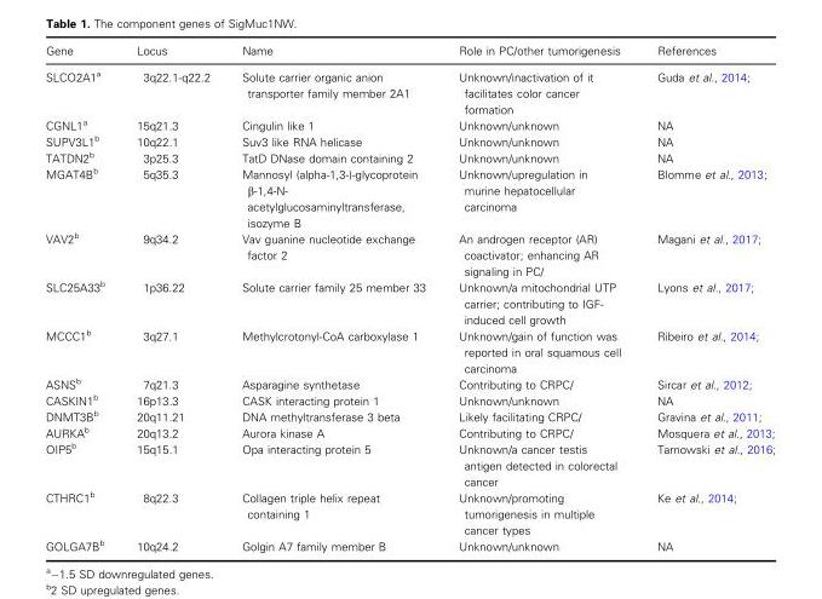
<table><thead><tr><td>Gene</td><td>Locus</td><td>Name</td><td>Role in PC/other tumorigenesis</td><td>References</td></tr></thead><tbody><tr><td>SLCO2A1<sup>a</sup></td><td>3q22.1-q22.2</td><td>Solute carrier organic anion transporter family member 2A1</td><td>Unknown/inactivation of it facilitates color cancer formation</td><td>Guda et al., 2014;</td></tr><tr><td>CGNL1<sup>a</sup></td><td>15q21.3</td><td>Cingulin like 1</td><td>Unknown/unknown</td><td>NA</td></tr><tr><td>SUPV3L1<sup>b</sup></td><td>10q22.1</td><td>Suv3 like RNA helicase</td><td>Unknown/unknown</td><td>NA</td></tr><tr><td>TATDN2<sup>b</sup></td><td>3p25.3</td><td>TatD DNase domain containing 2</td><td>Unknown/unknown</td><td>NA</td></tr><tr><td>MGAT4B<sup>b</sup></td><td>5q35.3</td><td>Mannosyl (alpha-1,3-)-glycoprotein β-1,4-N- acetylglucosaminyltransferase, isozyme B</td><td>Unknown/upregulation in murine hepatocellular carcinoma</td><td>Blomme et al., 2013;</td></tr><tr><td>VAV2<sup>b</sup></td><td>9q34.2</td><td>Vav guanine nucleotide exchange factor 2</td><td>An androgen receptor (AR) coactivator; enhancing AR signaling in PC/</td><td>Magani et al., 2017;</td></tr><tr><td>SLC25A33<sup>b</sup></td><td>1p36.22</td><td>Solute carrier family 25 member 33</td><td>Unknown/a mitochondrial UTP carrier; contributing to IGF- induced cell growth</td><td>Lyons et al., 2017;</td></tr><tr><td>MCCC1<sup>b</sup></td><td>3q27.1</td><td>Methylcrotonyl-CoA carboxylase 1</td><td>Unknown/gain of function was reported in oral squamous cell carcinoma</td><td>Ribeiro et al., 2014;</td></tr><tr><td>ASNS<sup>b</sup></td><td>7q21.3</td><td>Asparagine synthetase</td><td>Contributing to CRPC/</td><td>Sircar et al., 2012;</td></tr><tr><td>CASKIN1<sup>b</sup></td><td>16p13.3</td><td>CASK interacting protein 1</td><td>Unknown/unknown</td><td>NA</td></tr><tr><td>DNMT3B<sup>b</sup></td><td>20q11.21</td><td>DNA methyltransferase 3 beta</td><td>Likely facilitating CRPC/</td><td>Gravina et al., 2011;</td></tr><tr><td>AURKA<sup>b</sup></td><td>20q13.2</td><td>Aurora kinase A</td><td>Contributing to CRPC/</td><td>Mosquera et al., 2013;</td></tr><tr><td>OIP5<sup>b</sup></td><td>15q15.1</td><td>Opa interacting protein 5</td><td>Unknown/a cancer testis antigen detected in colorectal cancer</td><td>Tarnowski et al., 2016;</td></tr><tr><td>CTHRC1<sup>b</sup></td><td>8q22.3</td><td>Collagen triple helix repeat containing 1</td><td>Unknown/promoting tumorigenesis in multiple cancer types</td><td>Ke et al., 2014;</td></tr><tr><td>GOLGA7B<sup>b</sup></td><td>10q24.2</td><td>Golgin A7 family member B</td><td>Unknown/unknown</td><td>NA</td></tr></tbody></table>